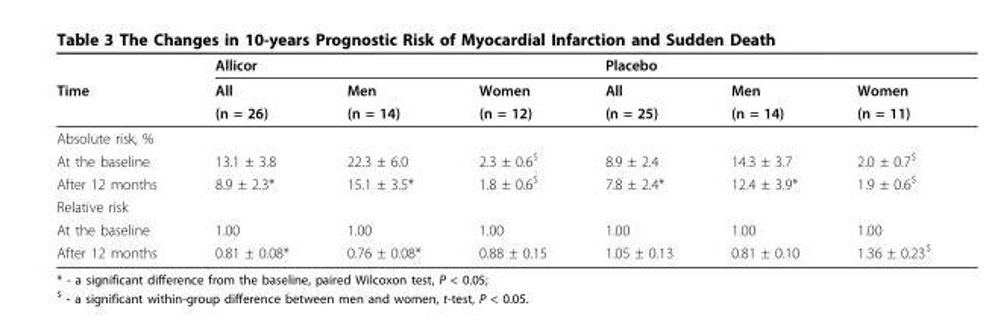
<table><thead><tr><td rowspan="3">Time</td><td colspan="3">Allicor</td><td colspan="3">Placebo</td></tr><tr><td rowspan="2">All (n = 26)</td><td rowspan="2">Men (n = 14)</td><td rowspan="2">Women (n = 12)</td><td rowspan="2">All (n = 25)</td><td rowspan="2">Men (n = 14)</td><td rowspan="2">Women (n = 11)</td></tr><tr></tr></thead><tbody><tr><td colspan="7">Absolute risk, %</td></tr><tr><td>At the baseline</td><td>13.1 ± 3.8</td><td>22.3 ± 6.0</td><td>2.3 ± 0.6<sup>$</sup></td><td>8.9 ± 2.4</td><td>14.3 ± 3.7</td><td>2.0 ± 0.7<sup>$</sup></td></tr><tr><td>After 12 months</td><td>8.9 ± 2.3*</td><td>15.1 ± 3.5*</td><td>1.8 ± 0.6<sup>$</sup></td><td>7.8 ± 2.4*</td><td>12.4 ± 3.9*</td><td>1.9 ± 0.6<sup>$</sup></td></tr><tr><td colspan="7">Relative risk</td></tr><tr><td>At the baseline</td><td>1.00</td><td>1.00</td><td>1.00</td><td>1.00</td><td>1.00</td><td>1.00</td></tr><tr><td>After 12 months</td><td>0.81 ± 0.08*</td><td>0.76 ± 0.08*</td><td>0.88 ± 0.15</td><td>1.05 ± 0.13</td><td>0.81 ± 0.10</td><td>1.36 ± 0.23<sup>$</sup></td></tr></tbody></table>